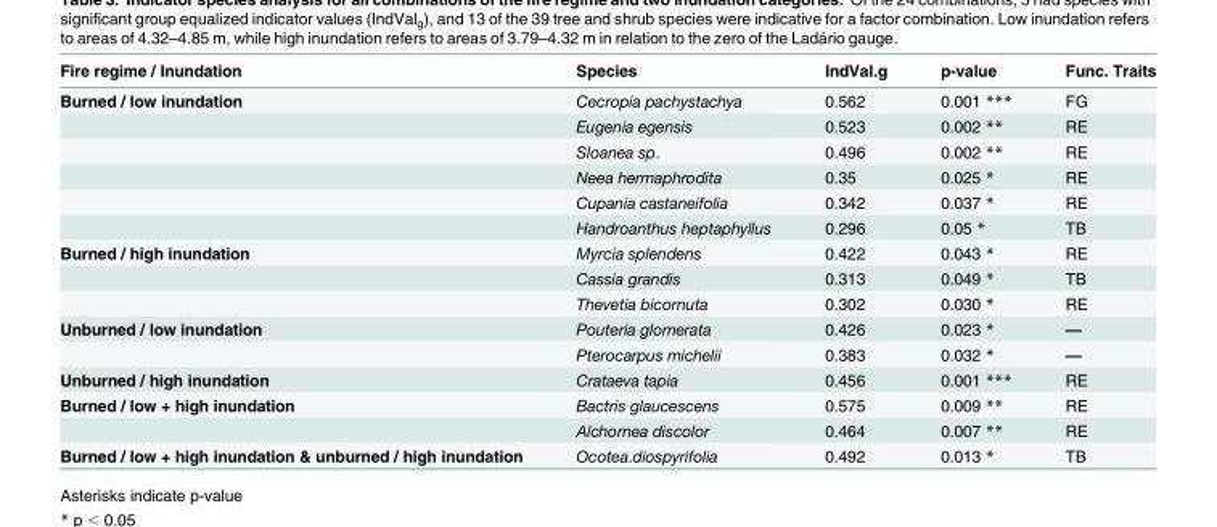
<table><thead><tr><td>Fire regime / Inundation</td><td>Species</td><td>IndVal.g</td><td>p-value</td><td>Func. Traits</td></tr></thead><tbody><tr><td rowspan="6">Burned / low inundation</td><td>Cecropia pachystachya</td><td>0.562</td><td>0.001 ***</td><td>FG</td></tr><tr><td>Eugenia egensis</td><td>0.523</td><td>0.002 **</td><td>RE</td></tr><tr><td>Sloanea sp.</td><td>0.496</td><td>0.002 **</td><td>RE</td></tr><tr><td>Neea hermaphrodita</td><td>0.35</td><td>0.025 *</td><td>RE</td></tr><tr><td>Cupania castaneifolia</td><td>0.342</td><td>0.037 *</td><td>RE</td></tr><tr><td>Handroanthus heptaphyllus</td><td>0.296</td><td>0.05 *</td><td>TB</td></tr><tr><td rowspan="3">Burned / high inundation</td><td>Myrcia splendens</td><td>0.422</td><td>0.043 *</td><td>RE</td></tr><tr><td>Cassia grandis</td><td>0.313</td><td>0.049 *</td><td>TB</td></tr><tr><td>Thevetia bicornuta</td><td>0.302</td><td>0.030 *</td><td>RE</td></tr><tr><td rowspan="2">Unburned / low inundation</td><td>Pouteria glomerata</td><td>0.426</td><td>0.023 *</td><td>—</td></tr><tr><td>Pterocarpus michelii</td><td>0.383</td><td>0.032 *</td><td>—</td></tr><tr><td>Unburned / high inundation</td><td>Crataeva tapia</td><td>0.456</td><td>0.001 ***</td><td>RE</td></tr><tr><td rowspan="2">Burned / low + high inundation</td><td>Bactris glaucescens</td><td>0.575</td><td>0.009 **</td><td>RE</td></tr><tr><td>Alchornea discolor</td><td>0.464</td><td>0.007 **</td><td>RE</td></tr><tr><td>Burned / low + high inundation &amp; unburned / high inundation</td><td>Ocotea.diospyrifolia</td><td>0.492</td><td>0.013 *</td><td>TB</td></tr></tbody></table>